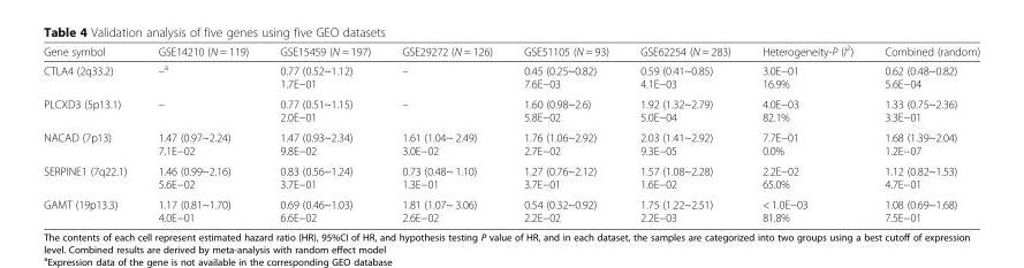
<table><thead><tr><td>Gene symbol</td><td>GSE14210 (N = 119)</td><td>GSE15459 (N = 197)</td><td>GSE29272 (N = 126)</td><td>GSE51105 (N = 93)</td><td>GSE62254 (N = 283)</td><td>Heterogeneity-P (I<sup>2</sup>)</td><td>Combined (random)</td></tr></thead><tbody><tr><td>CTLA4 (2q33.2)</td><td>–<sup>a</sup></td><td>0.77 (0.52~1.12) 1.7E−01</td><td>–</td><td>0.45 (0.25~0.82) 7.6E−03</td><td>0.59 (0.41~0.85) 4.1E−03</td><td>3.0E−01 16.9%</td><td>0.62 (0.48~0.82) 5.6E−04</td></tr><tr><td>PLCXD3 (5p13.1)</td><td>–</td><td>0.77 (0.51~1.15) 2.0E−01</td><td>–</td><td>1.60 (0.98~2.6) 5.8E−02</td><td>1.92 (1.32~2.79) 5.0E−04</td><td>4.0E−03 82.1%</td><td>1.33 (0.75~2.36) 3.3E−01</td></tr><tr><td>NACAD (7p13)</td><td>1.47 (0.97~2.24) 7.1E−02</td><td>1.47 (0.93~2.34) 9.8E−02</td><td>1.61 (1.04~ 2.49) 3.0E−02</td><td>1.76 (1.06~2.92) 2.7E−02</td><td>2.03 (1.41~2.92) 9.3E−05</td><td>7.7E−01 0.0%</td><td>1.68 (1.39~2.04) 1.2E−07</td></tr><tr><td>SERPINE1 (7q22.1)</td><td>1.46 (0.99~2.16) 5.6E−02</td><td>0.83 (0.56~1.24) 3.7E−01</td><td>0.73 (0.48~ 1.10) 1.3E−01</td><td>1.27 (0.76~2.12) 3.7E−01</td><td>1.57 (1.08~2.28) 1.6E−02</td><td>2.2E−02 65.0%</td><td>1.12 (0.82~1.53) 4.7E−01</td></tr><tr><td>GAMT (19p13.3)</td><td>1.17 (0.81~1.70) 4.0E−01</td><td>0.69 (0.46~1.03) 6.6E−02</td><td>1.81 (1.07~ 3.06) 2.6E−02</td><td>0.54 (0.32~0.92) 2.2E−02</td><td>1.75 (1.22~2.51) 2.2E−03</td><td>&lt; 1.0E−03 81.8%</td><td>1.08 (0.69~1.68) 7.5E−01</td></tr></tbody></table>